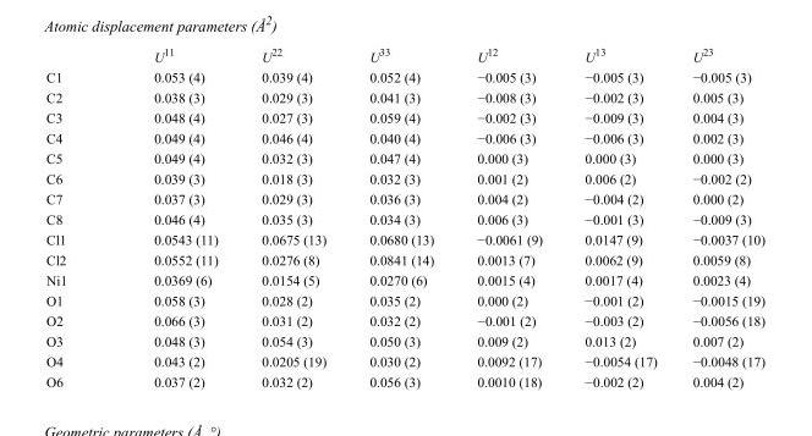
<table><thead><tr><td></td><td>U<sup>11</sup></td><td>U<sup>22</sup></td><td>U<sup>33</sup></td><td>U<sup>12</sup></td><td>U<sup>13</sup></td><td>U<sup>23</sup></td></tr></thead><tbody><tr><td>C1</td><td>0.053 (4)</td><td>0.039 (4)</td><td>0.052 (4)</td><td>−0.005 (3)</td><td>−0.005 (3)</td><td>−0.005 (3)</td></tr><tr><td>C2</td><td>0.038 (3)</td><td>0.029 (3)</td><td>0.041 (3)</td><td>−0.008 (3)</td><td>−0.002 (3)</td><td>0.005 (3)</td></tr><tr><td>C3</td><td>0.048 (4)</td><td>0.027 (3)</td><td>0.059 (4)</td><td>−0.002 (3)</td><td>−0.009 (3)</td><td>0.004 (3)</td></tr><tr><td>C4</td><td>0.049 (4)</td><td>0.046 (4)</td><td>0.040 (4)</td><td>−0.006 (3)</td><td>−0.006 (3)</td><td>0.002 (3)</td></tr><tr><td>C5</td><td>0.049 (4)</td><td>0.032 (3)</td><td>0.047 (4)</td><td>0.000 (3)</td><td>0.000 (3)</td><td>0.000 (3)</td></tr><tr><td>C6</td><td>0.039 (3)</td><td>0.018 (3)</td><td>0.032 (3)</td><td>0.001 (2)</td><td>0.006 (2)</td><td>−0.002 (2)</td></tr><tr><td>C7</td><td>0.037 (3)</td><td>0.029 (3)</td><td>0.036 (3)</td><td>0.004 (2)</td><td>−0.004 (2)</td><td>0.000 (2)</td></tr><tr><td>C8</td><td>0.046 (4)</td><td>0.035 (3)</td><td>0.034 (3)</td><td>0.006 (3)</td><td>−0.001 (3)</td><td>−0.009 (3)</td></tr><tr><td>Cl1</td><td>0.0543 (11)</td><td>0.0675 (13)</td><td>0.0680 (13)</td><td>−0.0061 (9)</td><td>0.0147 (9)</td><td>−0.0037 (10)</td></tr><tr><td>Cl2</td><td>0.0552 (11)</td><td>0.0276 (8)</td><td>0.0841 (14)</td><td>0.0013 (7)</td><td>0.0062 (9)</td><td>0.0059 (8)</td></tr><tr><td>Ni1</td><td>0.0369 (6)</td><td>0.0154 (5)</td><td>0.0270 (6)</td><td>0.0015 (4)</td><td>0.0017 (4)</td><td>0.0023 (4)</td></tr><tr><td>O1</td><td>0.058 (3)</td><td>0.028 (2)</td><td>0.035 (2)</td><td>0.000 (2)</td><td>−0.001 (2)</td><td>−0.0015 (19)</td></tr><tr><td>O2</td><td>0.066 (3)</td><td>0.031 (2)</td><td>0.032 (2)</td><td>−0.001 (2)</td><td>−0.003 (2)</td><td>−0.0056 (18)</td></tr><tr><td>O3</td><td>0.048 (3)</td><td>0.054 (3)</td><td>0.050 (3)</td><td>0.009 (2)</td><td>0.013 (2)</td><td>0.007 (2)</td></tr><tr><td>O4</td><td>0.043 (2)</td><td>0.0205 (19)</td><td>0.030 (2)</td><td>0.0092 (17)</td><td>−0.0054 (17)</td><td>−0.0048 (17)</td></tr><tr><td>O6</td><td>0.037 (2)</td><td>0.032 (2)</td><td>0.056 (3)</td><td>0.0010 (18)</td><td>−0.002 (2)</td><td>0.004 (2)</td></tr></tbody></table>